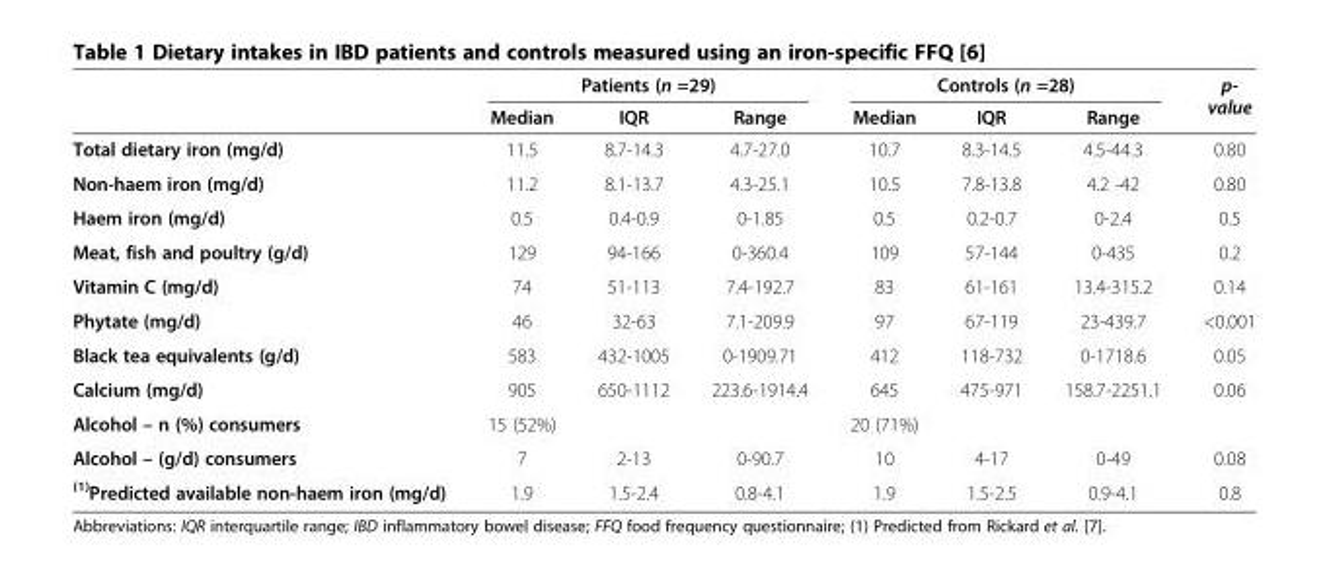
<table><thead><tr><td rowspan="2"></td><td colspan="3">Patients (n =29)</td><td colspan="3">Controls (n =28)</td><td rowspan="2">p- value</td></tr><tr><td>Median</td><td>IQR</td><td>Range</td><td>Median</td><td>IQR</td><td>Range</td></tr></thead><tbody><tr><td>Total dietary iron (mg/d)</td><td>11.5</td><td>8.7-14.3</td><td>4.7-27.0</td><td>10.7</td><td>8.3-14.5</td><td>4.5-44.3</td><td>0.80</td></tr><tr><td>Non-haem iron (mg/d)</td><td>11.2</td><td>8.1-13.7</td><td>4.3-25.1</td><td>10.5</td><td>7.8-13.8</td><td>4.2 -42</td><td>0.80</td></tr><tr><td>Haem iron (mg/d)</td><td>0.5</td><td>0.4-0.9</td><td>0-1.85</td><td>0.5</td><td>0.2-0.7</td><td>0-2.4</td><td>0.5</td></tr><tr><td>Meat, fish and poultry (g/d)</td><td>129</td><td>94-166</td><td>0-360.4</td><td>109</td><td>57-144</td><td>0-435</td><td>0.2</td></tr><tr><td>Vitamin C (mg/d)</td><td>74</td><td>51-113</td><td>7.4-192.7</td><td>83</td><td>61-161</td><td>13.4-315.2</td><td>0.14</td></tr><tr><td>Phytate (mg/d)</td><td>46</td><td>32-63</td><td>7.1-209.9</td><td>97</td><td>67-119</td><td>23-439.7</td><td>&lt;0.001</td></tr><tr><td>Black tea equivalents (g/d)</td><td>583</td><td>432-1005</td><td>0-1909.71</td><td>412</td><td>118-732</td><td>0-1718.6</td><td>0.05</td></tr><tr><td>Calcium (mg/d)</td><td>905</td><td>650-1112</td><td>223.6-1914.4</td><td>645</td><td>475-971</td><td>158.7-2251.1</td><td>0.06</td></tr><tr><td>Alcohol – n (%) consumers</td><td>15 (52%)</td><td></td><td></td><td>20 (71%)</td><td></td><td></td><td></td></tr><tr><td>Alcohol – (g/d) consumers</td><td>7</td><td>2-13</td><td>0-90.7</td><td>10</td><td>4-17</td><td>0-49</td><td>0.08</td></tr><tr><td><sup>(1)</sup>Predicted available non-haem iron (mg/d)</td><td>1.9</td><td>1.5-2.4</td><td>0.8-4.1</td><td>1.9</td><td>1.5-2.5</td><td>0.9-4.1</td><td>0.8</td></tr></tbody></table>